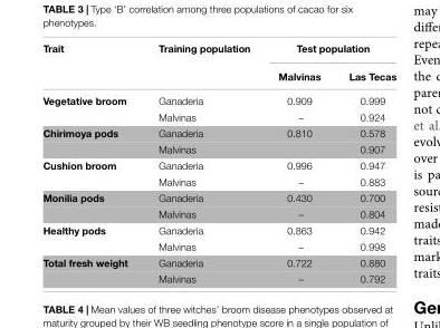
<table><thead><tr><td rowspan="2">Trait</td><td rowspan="2">Training population</td><td colspan="2">Test population</td></tr><tr><td>Malvinas</td><td>Las Tecas</td></tr></thead><tbody><tr><td rowspan="2">Vegetative broom</td><td>Ganaderia</td><td>0.909</td><td>0.999</td></tr><tr><td>Malvinas</td><td>–</td><td>0.924</td></tr><tr><td rowspan="2">Chirimoya pods</td><td>Ganaderia</td><td>0.810</td><td>0.578</td></tr><tr><td>Malvinas</td><td></td><td>0.907</td></tr><tr><td rowspan="2">Cushion broom</td><td>Ganaderia</td><td>0.996</td><td>0.947</td></tr><tr><td>Malvinas</td><td>–</td><td>0.883</td></tr><tr><td rowspan="2">Monilia pods</td><td>Ganaderia</td><td>0.430</td><td>0.700</td></tr><tr><td>Malvinas</td><td>–</td><td>0.804</td></tr><tr><td rowspan="2">Healthy pods</td><td>Ganaderia</td><td>0.863</td><td>0.942</td></tr><tr><td>Malvinas</td><td>–</td><td>0.998</td></tr><tr><td rowspan="2">Total fresh weight</td><td>Ganaderia</td><td>0.722</td><td>0.880</td></tr><tr><td>Malvinas</td><td>–</td><td>0.792</td></tr></tbody></table>